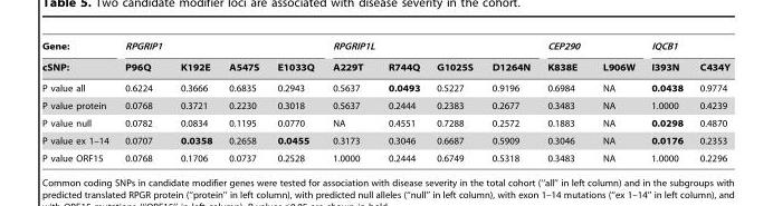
<table><thead><tr><td rowspan="2">Gene: cSNP:</td><td colspan="4">RPGRIP1</td><td colspan="4">RPGRIP1L</td><td colspan="2">CEP290</td><td colspan="2">IQCB1</td></tr><tr><td>P96Q</td><td>K192E</td><td>A547S</td><td>E1033Q</td><td>A229T</td><td>R744Q</td><td>G1025S</td><td>D1264N</td><td>K838E</td><td>L906W</td><td>I393N</td><td>C434Y</td></tr></thead><tbody><tr><td>P value all</td><td>0.6224</td><td>0.3666</td><td>0.6835</td><td>0.2943</td><td>0.5637</td><td>0.0493</td><td>0.5227</td><td>0.9196</td><td>0.6984</td><td>NA</td><td>0.0438</td><td>0.9774</td></tr><tr><td>P value protein</td><td>0.0768</td><td>0.3721</td><td>0.2230</td><td>0.3018</td><td>0.5637</td><td>0.2444</td><td>0.2383</td><td>0.2677</td><td>0.3483</td><td>NA</td><td>1.0000</td><td>0.4239</td></tr><tr><td>P value null</td><td>0.0782</td><td>0.0834</td><td>0.1195</td><td>0.0770</td><td>NA</td><td>0.4551</td><td>0.7288</td><td>0.2572</td><td>0.1883</td><td>NA</td><td>0.0298</td><td>0.4870</td></tr><tr><td>P value ex 1–14</td><td>0.0707</td><td>0.0358</td><td>0.2658</td><td>0.0455</td><td>0.3173</td><td>0.3046</td><td>0.6687</td><td>0.5909</td><td>0.3046</td><td>NA</td><td>0.0176</td><td>0.2353</td></tr><tr><td>P value ORF15</td><td>0.0768</td><td>0.1706</td><td>0.0737</td><td>0.2528</td><td>1.0000</td><td>0.2444</td><td>0.6749</td><td>0.5318</td><td>0.3483</td><td>NA</td><td>1.0000</td><td>0.2296</td></tr></tbody></table>